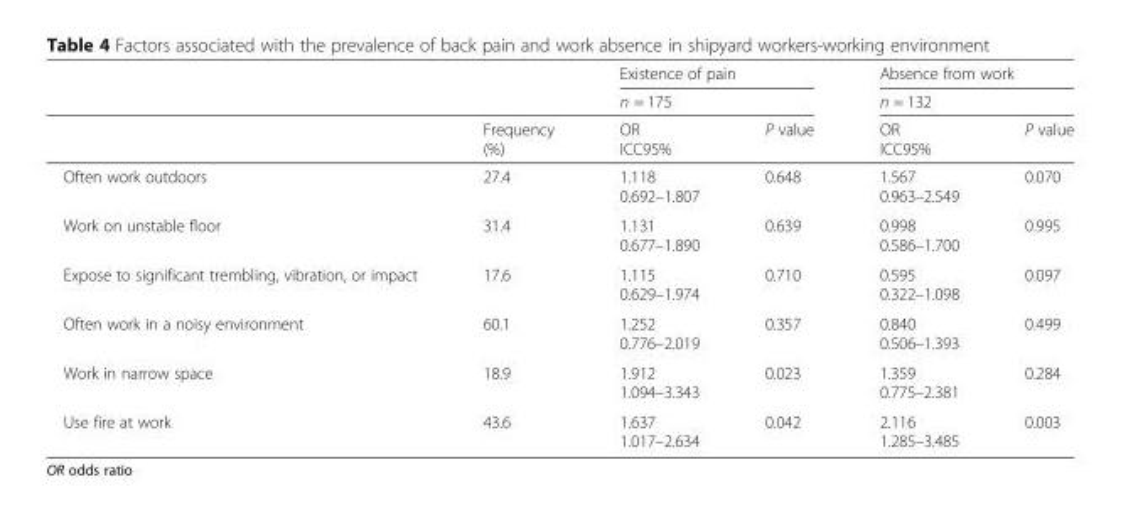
<table><thead><tr><td rowspan="3"></td><td rowspan="3">Frequency (%)</td><td rowspan="2" colspan="2">Existence of pain n = 175</td><td rowspan="2" colspan="2">Absence from work n = 132</td></tr><tr></tr><tr><td>OR ICC95%</td><td>P value</td><td>OR ICC95%</td><td>P value</td></tr></thead><tbody><tr><td>Often work outdoors</td><td>27.4</td><td>1.118 0.692–1.807</td><td>0.648</td><td>1.567 0.963–2.549</td><td>0.070</td></tr><tr><td>Work on unstable floor</td><td>31.4</td><td>1.131 0.677–1.890</td><td>0.639</td><td>0.998 0.586–1.700</td><td>0.995</td></tr><tr><td>Expose to significant trembling, vibration, or impact</td><td>17.6</td><td>1.115 0.629–1.974</td><td>0.710</td><td>0.595 0.322–1.098</td><td>0.097</td></tr><tr><td>Often work in a noisy environment</td><td>60.1</td><td>1.252 0.776–2.019</td><td>0.357</td><td>0.840 0.506–1.393</td><td>0.499</td></tr><tr><td>Work in narrow space</td><td>18.9</td><td>1.912 1.094–3.343</td><td>0.023</td><td>1.359 0.775–2.381</td><td>0.284</td></tr><tr><td>Use fire at work</td><td>43.6</td><td>1.637 1.017–2.634</td><td>0.042</td><td>2.116 1.285–3.485</td><td>0.003</td></tr></tbody></table>